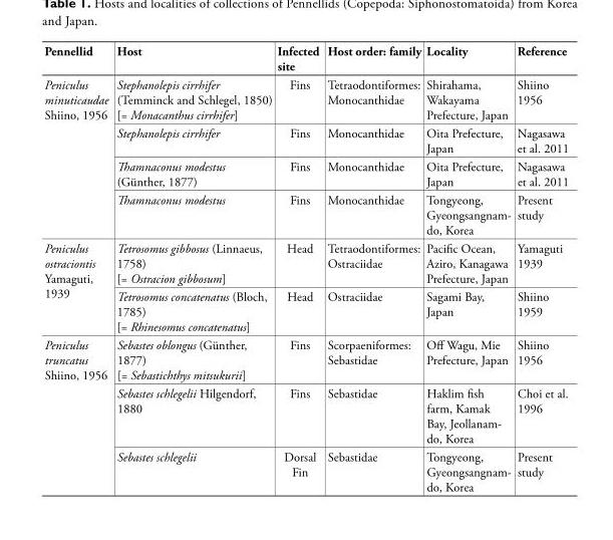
<table><thead><tr><td>Pennellid</td><td>Host</td><td>Infected site</td><td>Host order: family</td><td>Locality</td><td>Reference</td></tr></thead><tbody><tr><td rowspan="4">Peniculus minuticaudae Shiino, 1956</td><td>Stephanolepis cirrhifer (Temminck and Schlegel, 1850) [= Monacanthus cirrhifer]</td><td>Fins</td><td>Tetraodontiformes: Monocanthidae</td><td>Shirahama, Wakayama Prefecture, Japan</td><td>Shiino 1956</td></tr><tr><td>Stephanolepis cirrhifer</td><td>Fins</td><td>Monocanthidae</td><td>Oita Prefecture, Japan</td><td>Nagasawa et al. 2011</td></tr><tr><td>Thamnaconus modestus (Günther, 1877)</td><td>Fins</td><td>Monocanthidae</td><td>Oita Prefecture, Japan</td><td>Nagasawa et al. 2011</td></tr><tr><td>Thamnaconus modestus</td><td>Fins</td><td>Monocanthidae</td><td>Tongyeong, Gyeongsangnam- do, Korea</td><td>Present study</td></tr><tr><td rowspan="2">Peniculus ostraciontis Yamaguti, 1939</td><td>Tetrosomus gibbosus (Linnaeus, 1758) [= Ostracion gibbosum]</td><td>Head</td><td>Tetraodontiformes: Ostraciidae</td><td>Pacific Ocean, Aziro, Kanagawa Prefecture, Japan</td><td>Yamaguti 1939</td></tr><tr><td>Tetrosomus concatenatus (Bloch, 1785) [= Rhinesomus concatenatus]</td><td>Head</td><td>Ostraciidae</td><td>Sagami Bay, Japan</td><td>Shiino 1959</td></tr><tr><td rowspan="3">Peniculus truncatus Shiino, 1956</td><td>Sebastes oblongus (Günther, 1877) [= Sebastichthys mitsukurii]</td><td>Fins</td><td>Scorpaeniformes: Sebastidae</td><td>Off Wagu, Mie Prefecture, Japan</td><td>Shiino 1956</td></tr><tr><td>Sebastes schlegelii Hilgendorf, 1880</td><td>Fins</td><td>Sebastidae</td><td>Haklim fish farm, Kamak Bay, Jeollanam- do, Korea</td><td>Choi et al. 1996</td></tr><tr><td>Sebastes schlegelii</td><td>Dorsal Fin</td><td>Sebastidae</td><td>Tongyeong, Gyeongsangnam- do, Korea</td><td>Present study</td></tr></tbody></table>